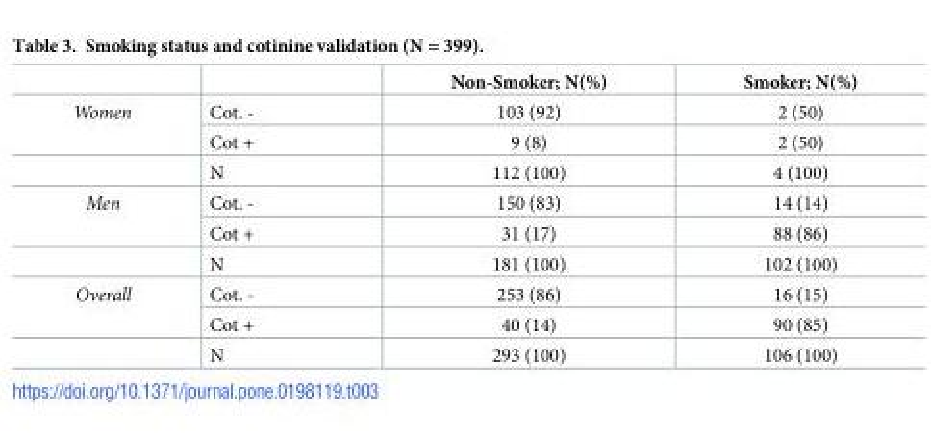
<table><thead><tr><td></td><td></td><td>Non-Smoker; N(%)</td><td>Smoker; N(%)</td></tr></thead><tbody><tr><td rowspan="3">Women</td><td>Cot. -</td><td>103 (92)</td><td>2 (50)</td></tr><tr><td>Cot +</td><td>9 (8)</td><td>2 (50)</td></tr><tr><td>N</td><td>112 (100)</td><td>4 (100)</td></tr><tr><td rowspan="3">Men</td><td>Cot. -</td><td>150 (83)</td><td>14 (14)</td></tr><tr><td>Cot +</td><td>31 (17)</td><td>88 (86)</td></tr><tr><td>N</td><td>181 (100)</td><td>102 (100)</td></tr><tr><td rowspan="3">Overall</td><td>Cot. -</td><td>253 (86)</td><td>16 (15)</td></tr><tr><td>Cot +</td><td>40 (14)</td><td>90 (85)</td></tr><tr><td>N</td><td>293 (100)</td><td>106 (100)</td></tr></tbody></table>